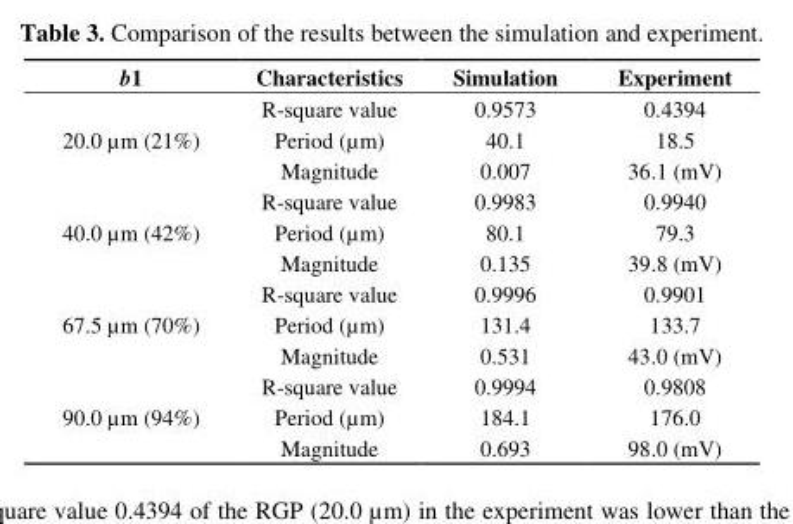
<table><thead><tr><td>b1</td><td>Characteristics</td><td>Simulation</td><td>Experiment</td></tr></thead><tbody><tr><td rowspan="3">20.0 µm (21%)</td><td>R-square value</td><td>0.9573</td><td>0.4394</td></tr><tr><td>Period (µm)</td><td>40.1</td><td>18.5</td></tr><tr><td>Magnitude</td><td>0.007</td><td>36.1 (mV)</td></tr><tr><td rowspan="3">40.0 µm (42%)</td><td>R-square value</td><td>0.9983</td><td>0.9940</td></tr><tr><td>Period (µm)</td><td>80.1</td><td>79.3</td></tr><tr><td>Magnitude</td><td>0.135</td><td>39.8 (mV)</td></tr><tr><td rowspan="3">67.5 µm (70%)</td><td>R-square value</td><td>0.9996</td><td>0.9901</td></tr><tr><td>Period (µm)</td><td>131.4</td><td>133.7</td></tr><tr><td>Magnitude</td><td>0.531</td><td>43.0 (mV)</td></tr><tr><td rowspan="3">90.0 µm (94%)</td><td>R-square value</td><td>0.9994</td><td>0.9808</td></tr><tr><td>Period (µm)</td><td>184.1</td><td>176.0</td></tr><tr><td>Magnitude</td><td>0.693</td><td>98.0 (mV)</td></tr></tbody></table>